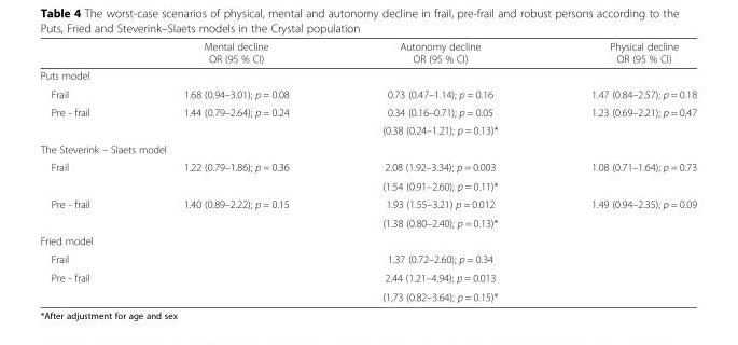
<table><thead><tr><td></td><td>Mental decline OR (95 % CI)</td><td>Autonomy decline OR (95 % CI)</td><td>Physical decline OR (95 % CI)</td></tr></thead><tbody><tr><td colspan="4">Puts model</td></tr><tr><td>Frail</td><td>1.68 (0.94–3.01); p = 0.08</td><td>0.73 (0.47–1.14); p = 0.16</td><td>1.47 (0.84–2.57); p = 0.18</td></tr><tr><td>Pre - frail</td><td>1.44 (0.79–2.64); p = 0.24</td><td>0.34 (0.16–0.71); p = 0.05</td><td>1.23 (0.69–2.21); p = 0.47</td></tr><tr><td colspan="2"></td><td>(0.38 (0.24–1.21); p = 0.13)*</td><td></td></tr><tr><td colspan="4">The Steverink – Slaets model</td></tr><tr><td>Frail</td><td>1.22 (0.79–1.86); p = 0.36</td><td>2.08 (1.92–3.34); p = 0.003</td><td>1.08 (0.71–1.64); p = 0.73</td></tr><tr><td colspan="2"></td><td>(1.54 (0.91–2.60); p = 0.11)*</td><td></td></tr><tr><td>Pre - frail</td><td>1.40 (0.89–2.22); p = 0.15</td><td>1.93 (1.55–3.21) p = 0.012</td><td>1.49 (0.94–2.35); p = 0.09</td></tr><tr><td colspan="2"></td><td>(1.38 (0.80–2.40); p = 0.13)*</td><td></td></tr><tr><td colspan="4">Fried model</td></tr><tr><td>Frail</td><td></td><td>1.37 (0.72–2.60); p = 0.34</td><td></td></tr><tr><td>Pre - frail</td><td></td><td>2.44 (1.21–4.94); p = 0.013</td><td></td></tr><tr><td colspan="2"></td><td>(1,73 (0.82–3.64); p = 0.15)*</td><td></td></tr></tbody></table>